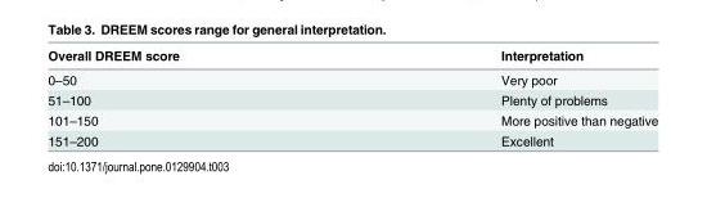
<table><thead><tr><td>Overall DREEM score</td><td>Interpretation</td></tr></thead><tbody><tr><td>0–50</td><td>Very poor</td></tr><tr><td>51–100</td><td>Plenty of problems</td></tr><tr><td>101–150</td><td>More positive than negative</td></tr><tr><td>151–200</td><td>Excellent</td></tr></tbody></table>